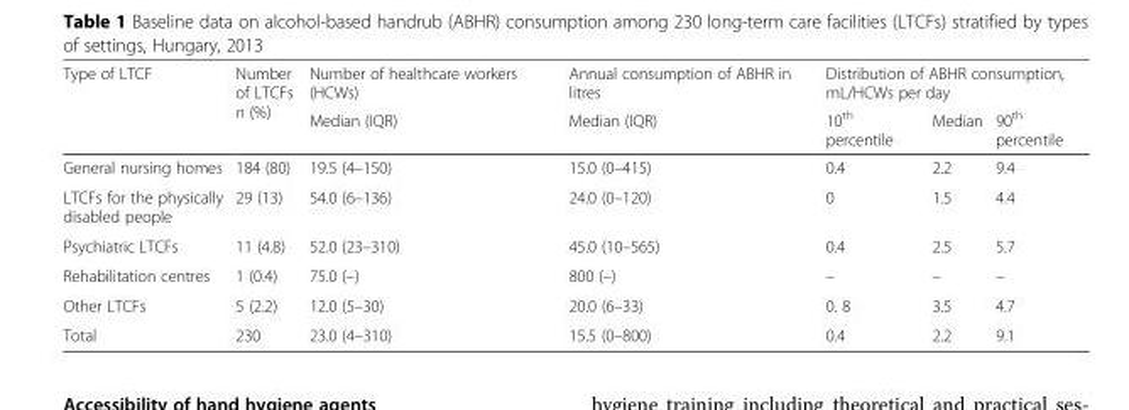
<table><thead><tr><td rowspan="2">Type of LTCF</td><td rowspan="2">Number of LTCFs n (%)</td><td rowspan="2">Number of healthcare workers (HCWs) Median (IQR)</td><td rowspan="2">Annual consumption of ABHR in litres Median (IQR)</td><td colspan="3">Distribution of ABHR consumption, mL/HCWs per day</td></tr><tr><td>10<sup>th</sup> percentile</td><td>Median</td><td>90<sup>th</sup> percentile</td></tr></thead><tbody><tr><td>General nursing homes</td><td>184 (80)</td><td>19.5 (4–150)</td><td>15.0 (0–415)</td><td>0.4</td><td>2.2</td><td>9.4</td></tr><tr><td>LTCFs for the physically disabled people</td><td>29 (13)</td><td>54.0 (6–136)</td><td>24.0 (0–120)</td><td>0</td><td>1.5</td><td>4.4</td></tr><tr><td>Psychiatric LTCFs</td><td>11 (4.8)</td><td>52.0 (23–310)</td><td>45.0 (10–565)</td><td>0.4</td><td>2.5</td><td>5.7</td></tr><tr><td>Rehabilitation centres</td><td>1 (0.4)</td><td>75.0 (–)</td><td>800 (–)</td><td>–</td><td>–</td><td>–</td></tr><tr><td>Other LTCFs</td><td>5 (2.2)</td><td>12.0 (5–30)</td><td>20.0 (6–33)</td><td>0. 8</td><td>3.5</td><td>4.7</td></tr><tr><td>Total</td><td>230</td><td>23.0 (4–310)</td><td>15.5 (0–800)</td><td>0.4</td><td>2.2</td><td>9.1</td></tr></tbody></table>